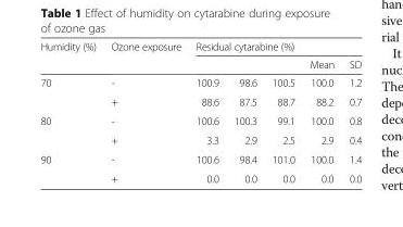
<table><thead><tr><td rowspan="2">Humidity (%)</td><td rowspan="2">Ozone exposure</td><td colspan="5">Residual cytarabine (%)</td></tr><tr><td></td><td></td><td></td><td>Mean</td><td>SD</td></tr></thead><tbody><tr><td rowspan="2">70</td><td>-</td><td>100.9</td><td>98.6</td><td>100.5</td><td>100.0</td><td>1.2</td></tr><tr><td>+</td><td>88.6</td><td>87.5</td><td>88.7</td><td>88.2</td><td>0.7</td></tr><tr><td rowspan="2">80</td><td>-</td><td>100.6</td><td>100.3</td><td>99.1</td><td>100.0</td><td>0.8</td></tr><tr><td>+</td><td>3.3</td><td>2.9</td><td>2.5</td><td>2.9</td><td>0.4</td></tr><tr><td rowspan="2">90</td><td>-</td><td>100.6</td><td>98.4</td><td>101.0</td><td>100.0</td><td>1.4</td></tr><tr><td>+</td><td>0.0</td><td>0.0</td><td>0.0</td><td>0.0</td><td>0.0</td></tr></tbody></table>